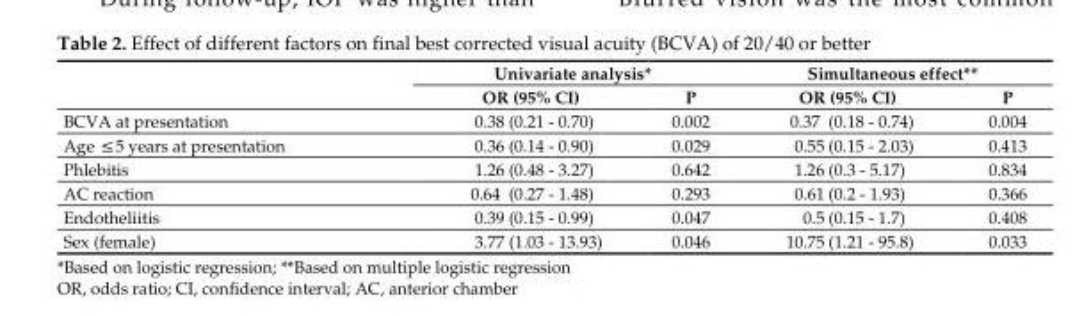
<table><thead><tr><td rowspan="2"></td><td colspan="2">Univariate analysis*</td><td colspan="2">Simultaneous effect**</td></tr><tr><td>OR (95% CI)</td><td>P</td><td>OR (95% CI)</td><td>P</td></tr></thead><tbody><tr><td>BCVA at presentation</td><td>0.38 (0.21 - 0.70)</td><td>0.002</td><td>0.37 (0.18 - 0.74)</td><td>0.004</td></tr><tr><td>Age ≤5 years at presentation</td><td>0.36 (0.14 - 0.90)</td><td>0.029</td><td>0.55 (0.15 - 2.03)</td><td>0.413</td></tr><tr><td>Phlebitis</td><td>1.26 (0.48 - 3.27)</td><td>0.642</td><td>1.26 (0.3 - 5.17)</td><td>0.834</td></tr><tr><td>AC reaction</td><td>0.64 (0.27 - 1.48)</td><td>0.293</td><td>0.61 (0.2 - 1.93)</td><td>0.366</td></tr><tr><td>Endotheliitis</td><td>0.39 (0.15 - 0.99)</td><td>0.047</td><td>0.5 (0.15 - 1.7)</td><td>0.408</td></tr><tr><td>Sex (female)</td><td>3.77 (1.03 - 13.93)</td><td>0.046</td><td>10.75 (1.21 - 95.8)</td><td>0.033</td></tr></tbody></table>